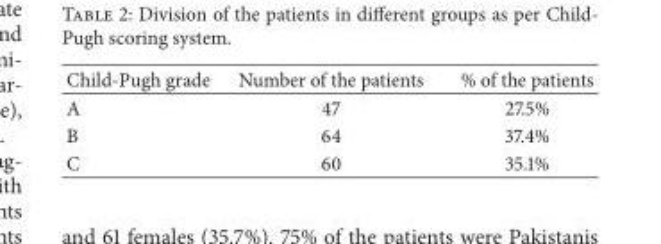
<table><thead><tr><td>Child-Pugh grade</td><td>Number of the patients</td><td>% of the patients</td></tr></thead><tbody><tr><td>A</td><td>47</td><td>27.5%</td></tr><tr><td>B</td><td>64</td><td>37.4%</td></tr><tr><td>C</td><td>60</td><td>35.1%</td></tr></tbody></table>